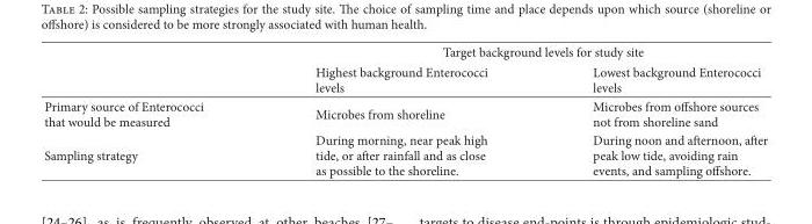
<table><thead><tr><td rowspan="2"></td><td colspan="2">Target background levels for study site</td></tr><tr><td>Highest background Enterococci levels</td><td>Lowest background Enterococci levels</td></tr></thead><tbody><tr><td>Primary source of Enterococci that would be measured</td><td>Microbes from shoreline</td><td>Microbes from offshore sources not from shoreline sand</td></tr><tr><td>Sampling strategy</td><td>During morning, near peak high tide, or after rainfall and as close as possible to the shoreline.</td><td>During noon and afternoon, after peak low tide, avoiding rain events, and sampling offshore.</td></tr></tbody></table>